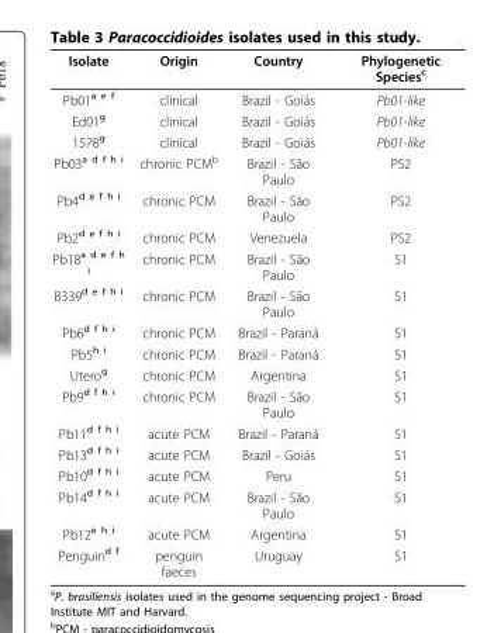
<table><thead><tr><td>Isolate</td><td>Origin</td><td>Country</td><td>Phylogenetic Species<sup>c</sup></td></tr></thead><tbody><tr><td>Pb01<sup>a e f</sup></td><td>clinical</td><td>Brazil - Goiás</td><td>Pb01-like</td></tr><tr><td>Ed01<sup>g</sup></td><td>clinical</td><td>Brazil - Goiás</td><td>Pb01-like</td></tr><tr><td>1578<sup>g</sup></td><td>clinical</td><td>Brazil - Goiás</td><td>Pb01-like</td></tr><tr><td>Pb03<sup>a d f h i</sup></td><td>chronic PCM<sup>b</sup></td><td>Brazil - São Paulo</td><td>PS2</td></tr><tr><td>Pb4<sup>d e f h i</sup></td><td>chronic PCM</td><td>Brazil - São Paulo</td><td>PS2</td></tr><tr><td>Pb2<sup>d e f h i</sup></td><td>chronic PCM</td><td>Venezuela</td><td>PS2</td></tr><tr><td>Pb18<sup>a d e f h i</sup></td><td>chronic PCM</td><td>Brazil - São Paulo</td><td>S1</td></tr><tr><td>B339<sup>d e f h i</sup></td><td>chronic PCM</td><td>Brazil - São Paulo</td><td>S1</td></tr><tr><td>Pb6<sup>d f h i</sup></td><td>chronic PCM</td><td>Brazil - Paraná</td><td>S1</td></tr><tr><td>Pb5<sup>h i</sup></td><td>chronic PCM</td><td>Brazil - Paraná</td><td>S1</td></tr><tr><td>Utero<sup>g</sup></td><td>chronic PCM</td><td>Argentina</td><td>S1</td></tr><tr><td>Pb9<sup>d f h i</sup></td><td>chronic PCM</td><td>Brazil - São Paulo</td><td>S1</td></tr><tr><td>Pb11<sup>d f h i</sup></td><td>acute PCM</td><td>Brazil - Paraná</td><td>S1</td></tr><tr><td>Pb13<sup>d f h i</sup></td><td>acute PCM</td><td>Brazil - Goiás</td><td>S1</td></tr><tr><td>Pb10<sup>d f h i</sup></td><td>acute PCM</td><td>Peru</td><td>S1</td></tr><tr><td>Pb14<sup>d f h i</sup></td><td>acute PCM</td><td>Brazil - São Paulo</td><td>S1</td></tr><tr><td>Pb12<sup>e h i</sup></td><td>acute PCM</td><td>Argentina</td><td>S1</td></tr><tr><td>Penguin<sup>d f</sup></td><td>penguin faeces</td><td>Uruguay</td><td>S1</td></tr></tbody></table>